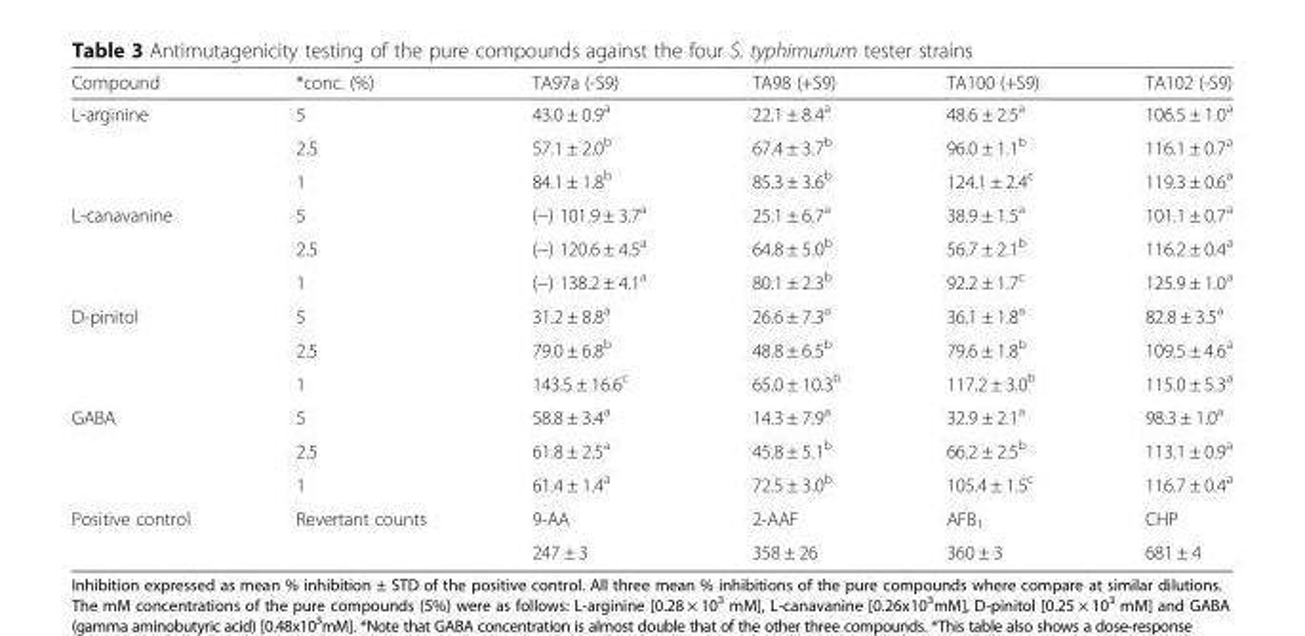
<table><thead><tr><td>Compound</td><td>*conc. (%)</td><td>TA97a (-S9)</td><td>TA98 (+S9)</td><td>TA100 (+S9)</td><td>TA102 (-S9)</td></tr></thead><tbody><tr><td rowspan="3">L-arginine</td><td>5</td><td>43.0 ± 0.9<sup>a</sup></td><td>22.1 ± 8.4<sup>a</sup></td><td>48.6 ± 2.5<sup>a</sup></td><td>106.5 ± 1.0<sup>a</sup></td></tr><tr><td>2.5</td><td>57.1 ± 2.0<sup>b</sup></td><td>67.4 ± 3.7<sup>b</sup></td><td>96.0 ± 1.1<sup>b</sup></td><td>116.1 ± 0.7<sup>a</sup></td></tr><tr><td>1</td><td>84.1 ± 1.8<sup>b</sup></td><td>85.3 ± 3.6<sup>b</sup></td><td>124.1 ± 2.4<sup>c</sup></td><td>119.3 ± 0.6<sup>a</sup></td></tr><tr><td rowspan="3">L-canavanine</td><td>5</td><td>(−) 101.9 ± 3.7<sup>a</sup></td><td>25.1 ± 6.7<sup>a</sup></td><td>38.9 ± 1.5<sup>a</sup></td><td>101.1 ± 0.7<sup>a</sup></td></tr><tr><td>2.5</td><td>(−) 120.6 ± 4.5<sup>a</sup></td><td>64.8 ± 5.0<sup>b</sup></td><td>56.7 ± 2.1<sup>b</sup></td><td>116.2 ± 0.4<sup>a</sup></td></tr><tr><td>1</td><td>(−) 138.2 ± 4.1<sup>a</sup></td><td>80.1 ± 2.3<sup>b</sup></td><td>92.2 ± 1.7<sup>c</sup></td><td>125.9 ± 1.0<sup>a</sup></td></tr><tr><td rowspan="3">D-pinitol</td><td>5</td><td>31.2 ± 8.8<sup>a</sup></td><td>26.6 ± 7.3<sup>a</sup></td><td>36.1 ± 1.8<sup>a</sup></td><td>82.8 ± 3.5<sup>a</sup></td></tr><tr><td>2.5</td><td>79.0 ± 6.8<sup>b</sup></td><td>48.8 ± 6.5<sup>b</sup></td><td>79.6 ± 1.8<sup>b</sup></td><td>109.5 ± 4.6<sup>a</sup></td></tr><tr><td>1</td><td>143.5 ± 16.6<sup>c</sup></td><td>65.0 ± 10.3<sup>b</sup></td><td>117.2 ± 3.0<sup>b</sup></td><td>115.0 ± 5.3<sup>a</sup></td></tr><tr><td rowspan="3">GABA</td><td>5</td><td>58.8 ± 3.4<sup>a</sup></td><td>14.3 ± 7.9<sup>a</sup></td><td>32.9 ± 2.1<sup>a</sup></td><td>98.3 ± 1.0<sup>a</sup></td></tr><tr><td>2.5</td><td>61.8 ± 2.5<sup>a</sup></td><td>45.8 ± 5.1<sup>b</sup></td><td>66.2 ± 2.5<sup>b</sup></td><td>113.1 ± 0.9<sup>a</sup></td></tr><tr><td>1</td><td>61.4 ± 1.4<sup>a</sup></td><td>72.5 ± 3.0<sup>b</sup></td><td>105.4 ± 1.5<sup>c</sup></td><td>116.7 ± 0.4<sup>a</sup></td></tr><tr><td rowspan="2">Positive control</td><td rowspan="2">Revertant counts</td><td>9-AA</td><td>2-AAF</td><td>AFB<sub>1</sub></td><td>CHP</td></tr><tr><td>247 ± 3</td><td>358 ± 26</td><td>360 ± 3</td><td>681 ± 4</td></tr></tbody></table>